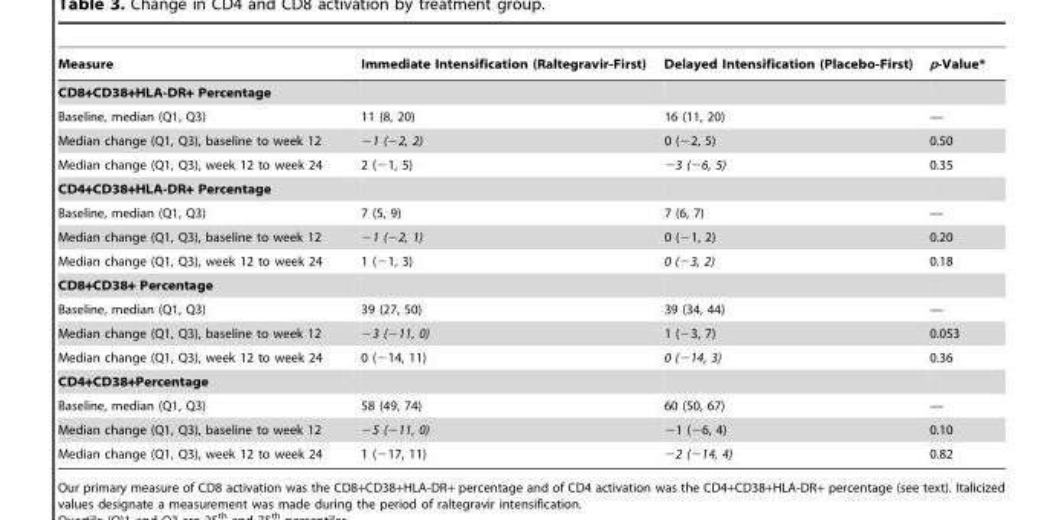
<table><thead><tr><td>Measure</td><td>Immediate Intensification (Raltegravir-First)</td><td>Delayed Intensification (Placebo-First)</td><td>p-Value*</td></tr></thead><tbody><tr><td colspan="4">CD8+CD38+HLA-DR+ Percentage</td></tr><tr><td>Baseline, median (Q1, Q3)</td><td>11 (8, 20)</td><td>16 (11, 20)</td><td>—</td></tr><tr><td>Median change (Q1, Q3), baseline to week 12</td><td>−1 (−2, 2)</td><td>0 (−2, 5)</td><td>0.50</td></tr><tr><td>Median change (Q1, Q3), week 12 to week 24</td><td>2 (−1, 5)</td><td>−3 (−6, 5)</td><td>0.35</td></tr><tr><td colspan="4">CD4+CD38+HLA-DR+ Percentage</td></tr><tr><td>Baseline, median (Q1, Q3)</td><td>7 (5, 9)</td><td>7 (6, 7)</td><td>—</td></tr><tr><td>Median change (Q1, Q3), baseline to week 12</td><td>−1 (−2, 1)</td><td>0 (−1, 2)</td><td>0.20</td></tr><tr><td>Median change (Q1, Q3), week 12 to week 24</td><td>1 (−1, 3)</td><td>0 (−3, 2)</td><td>0.18</td></tr><tr><td colspan="4">CD8+CD38+ Percentage</td></tr><tr><td>Baseline, median (Q1, Q3)</td><td>39 (27, 50)</td><td>39 (34, 44)</td><td>—</td></tr><tr><td>Median change (Q1, Q3), baseline to week 12</td><td>−3 (−11, 0)</td><td>1 (−3, 7)</td><td>0.053</td></tr><tr><td>Median change (Q1, Q3), week 12 to week 24</td><td>0 (−14, 11)</td><td>0 (−14, 3)</td><td>0.36</td></tr><tr><td colspan="4">CD4+CD38+Percentage</td></tr><tr><td>Baseline, median (Q1, Q3)</td><td>58 (49, 74)</td><td>60 (50, 67)</td><td>—</td></tr><tr><td>Median change (Q1, Q3), baseline to week 12</td><td>−5 (−11, 0)</td><td>−1 (−6, 4)</td><td>0.10</td></tr><tr><td>Median change (Q1, Q3), week 12 to week 24</td><td>1 (−17, 11)</td><td>−2 (−14, 4)</td><td>0.82</td></tr></tbody></table>